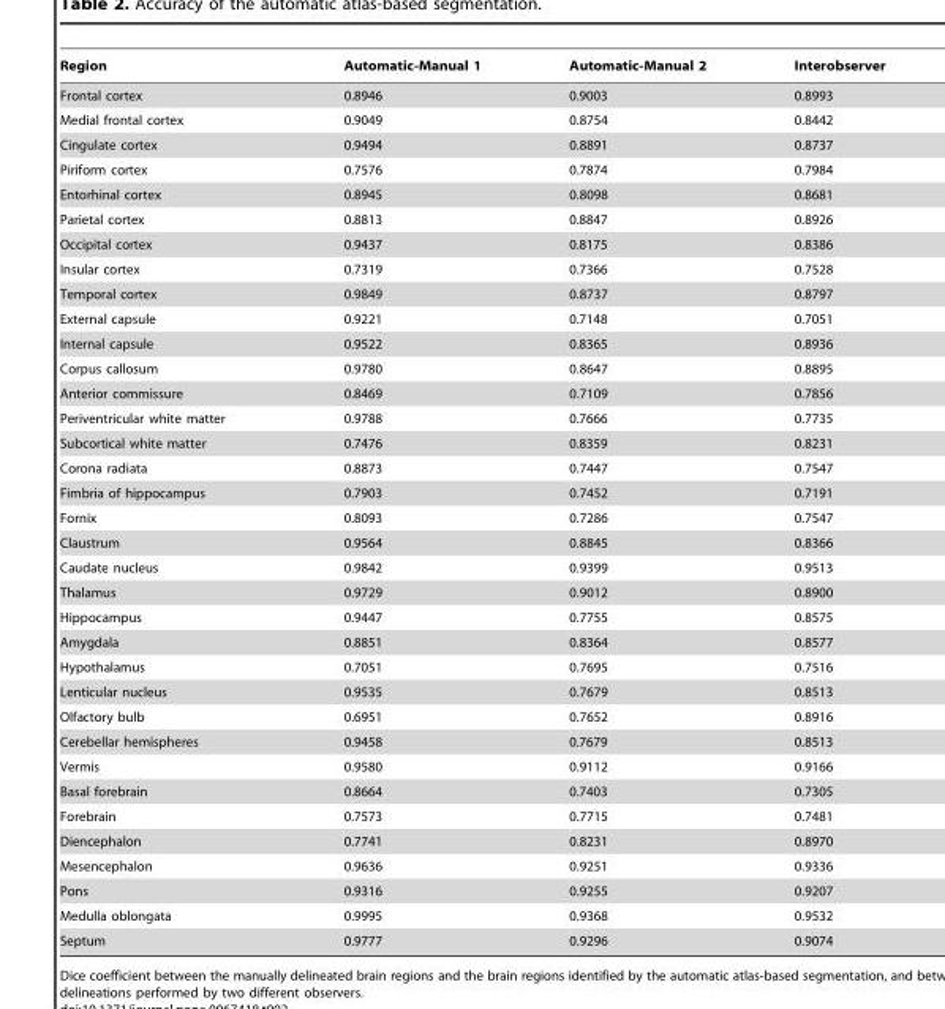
<table><thead><tr><td>Region</td><td>Automatic-Manual 1</td><td>Automatic-Manual 2</td><td>Interobserver</td></tr></thead><tbody><tr><td>Frontal cortex</td><td>0.8946</td><td>0.9003</td><td>0.8993</td></tr><tr><td>Medial frontal cortex</td><td>0.9049</td><td>0.8754</td><td>0.8442</td></tr><tr><td>Cingulate cortex</td><td>0.9494</td><td>0.8891</td><td>0.8737</td></tr><tr><td>Piriform cortex</td><td>0.7576</td><td>0.7874</td><td>0.7984</td></tr><tr><td>Entorhinal cortex</td><td>0.8945</td><td>0.8098</td><td>0.8681</td></tr><tr><td>Parietal cortex</td><td>0.8813</td><td>0.8847</td><td>0.8926</td></tr><tr><td>Occipital cortex</td><td>0.9437</td><td>0.8175</td><td>0.8386</td></tr><tr><td>Insular cortex</td><td>0.7319</td><td>0.7366</td><td>0.7528</td></tr><tr><td>Temporal cortex</td><td>0.9849</td><td>0.8737</td><td>0.8797</td></tr><tr><td>External capsule</td><td>0.9221</td><td>0.7148</td><td>0.7051</td></tr><tr><td>Internal capsule</td><td>0.9522</td><td>0.8365</td><td>0.8936</td></tr><tr><td>Corpus callosum</td><td>0.9780</td><td>0.8647</td><td>0.8895</td></tr><tr><td>Anterior commissure</td><td>0.8469</td><td>0.7109</td><td>0.7856</td></tr><tr><td>Periventricular white matter</td><td>0.9788</td><td>0.7666</td><td>0.7735</td></tr><tr><td>Subcortical white matter</td><td>0.7476</td><td>0.8359</td><td>0.8231</td></tr><tr><td>Corona radiata</td><td>0.8873</td><td>0.7447</td><td>0.7547</td></tr><tr><td>Fimbria of hippocampus</td><td>0.7903</td><td>0.7452</td><td>0.7191</td></tr><tr><td>Fornix</td><td>0.8093</td><td>0.7286</td><td>0.7547</td></tr><tr><td>Claustrum</td><td>0.9564</td><td>0.8845</td><td>0.8366</td></tr><tr><td>Caudate nucleus</td><td>0.9842</td><td>0.9399</td><td>0.9513</td></tr><tr><td>Thalamus</td><td>0.9729</td><td>0.9012</td><td>0.8900</td></tr><tr><td>Hippocampus</td><td>0.9447</td><td>0.7755</td><td>0.8575</td></tr><tr><td>Amygdala</td><td>0.8851</td><td>0.8364</td><td>0.8577</td></tr><tr><td>Hypothalamus</td><td>0.7051</td><td>0.7695</td><td>0.7516</td></tr><tr><td>Lenticular nucleus</td><td>0.9535</td><td>0.7679</td><td>0.8513</td></tr><tr><td>Olfactory bulb</td><td>0.6951</td><td>0.7652</td><td>0.8916</td></tr><tr><td>Cerebellar hemispheres</td><td>0.9458</td><td>0.7679</td><td>0.8513</td></tr><tr><td>Vermis</td><td>0.9580</td><td>0.9112</td><td>0.9166</td></tr><tr><td>Basal forebrain</td><td>0.8664</td><td>0.7403</td><td>0.7305</td></tr><tr><td>Forebrain</td><td>0.7573</td><td>0.7715</td><td>0.7481</td></tr><tr><td>Diencephalon</td><td>0.7741</td><td>0.8231</td><td>0.8970</td></tr><tr><td>Mesencephalon</td><td>0.9636</td><td>0.9251</td><td>0.9336</td></tr><tr><td>Pons</td><td>0.9316</td><td>0.9255</td><td>0.9207</td></tr><tr><td>Medulla oblongata</td><td>0.9995</td><td>0.9368</td><td>0.9532</td></tr><tr><td>Septum</td><td>0.9777</td><td>0.9296</td><td>0.9074</td></tr></tbody></table>